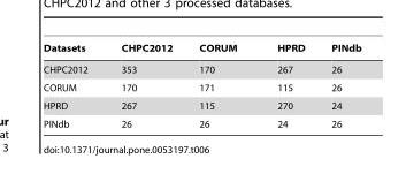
<table><thead><tr><td>Datasets</td><td>CHPC2012</td><td>CORUM</td><td>HPRD</td><td>PINdb</td></tr></thead><tbody><tr><td>CHPC2012</td><td>353</td><td>170</td><td>267</td><td>26</td></tr><tr><td>CORUM</td><td>170</td><td>171</td><td>115</td><td>26</td></tr><tr><td>HPRD</td><td>267</td><td>115</td><td>270</td><td>24</td></tr><tr><td>PINdb</td><td>26</td><td>26</td><td>24</td><td>26</td></tr></tbody></table>